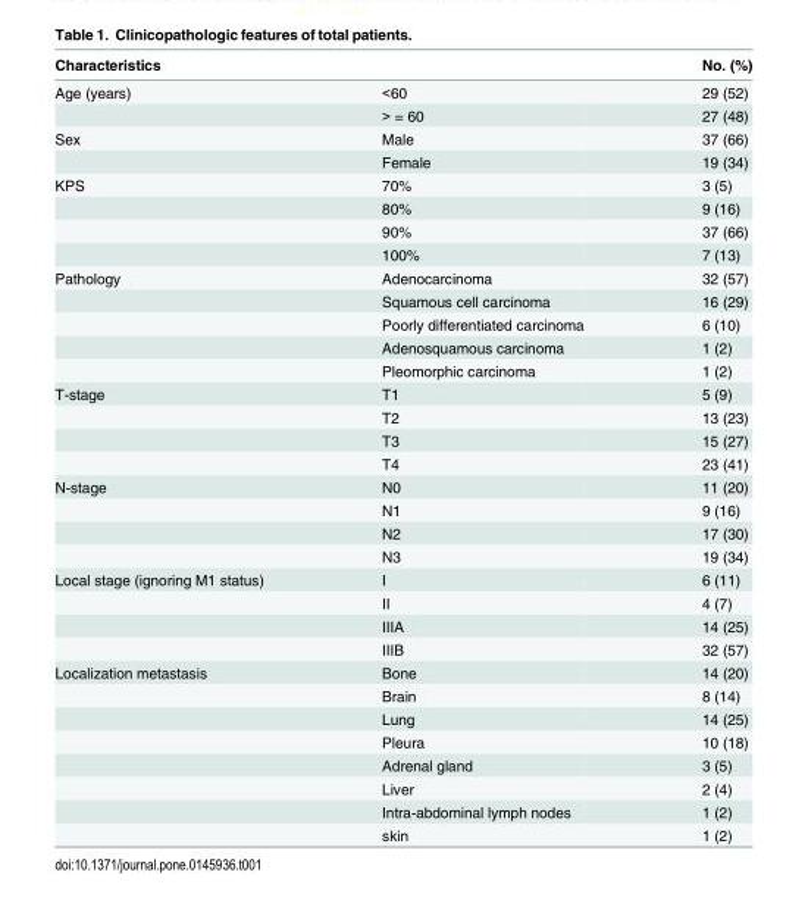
<table><thead><tr><td colspan="2">Characteristics</td><td rowspan="2">No. (%) 29 (52)</td></tr><tr><td>Age (years)</td><td>&lt;60</td></tr></thead><tbody><tr><td></td><td>&gt; = 60</td><td>27 (48)</td></tr><tr><td rowspan="2">Sex</td><td>Male</td><td>37 (66)</td></tr><tr><td>Female</td><td>19 (34)</td></tr><tr><td rowspan="4">KPS</td><td>70%</td><td>3 (5)</td></tr><tr><td>80%</td><td>9 (16)</td></tr><tr><td>90%</td><td>37 (66)</td></tr><tr><td>100%</td><td>7 (13)</td></tr><tr><td rowspan="5">Pathology</td><td>Adenocarcinoma</td><td>32 (57)</td></tr><tr><td>Squamous cell carcinoma</td><td>16 (29)</td></tr><tr><td>Poorly differentiated carcinoma</td><td>6 (10)</td></tr><tr><td>Adenosquamous carcinoma</td><td>1 (2)</td></tr><tr><td>Pleomorphic carcinoma</td><td>1 (2)</td></tr><tr><td rowspan="4">T-stage</td><td>T1</td><td>5 (9)</td></tr><tr><td>T2</td><td>13 (23)</td></tr><tr><td>T3</td><td>15 (27)</td></tr><tr><td>T4</td><td>23 (41)</td></tr><tr><td rowspan="4">N-stage</td><td>N0</td><td>11 (20)</td></tr><tr><td>N1</td><td>9 (16)</td></tr><tr><td>N2</td><td>17 (30)</td></tr><tr><td>N3</td><td>19 (34)</td></tr><tr><td rowspan="4">Local stage (ignoring M1 status)</td><td>I</td><td>6 (11)</td></tr><tr><td>II</td><td>4 (7)</td></tr><tr><td>IIIA</td><td>14 (25)</td></tr><tr><td>IIIB</td><td>32 (57)</td></tr><tr><td rowspan="8">Localization metastasis</td><td>Bone</td><td>14 (20)</td></tr><tr><td>Brain</td><td>8 (14)</td></tr><tr><td>Lung</td><td>14 (25)</td></tr><tr><td>Pleura</td><td>10 (18)</td></tr><tr><td>Adrenal gland</td><td>3 (5)</td></tr><tr><td>Liver</td><td>2 (4)</td></tr><tr><td>Intra-abdominal lymph nodes</td><td>1 (2)</td></tr><tr><td>skin</td><td>1 (2)</td></tr></tbody></table>